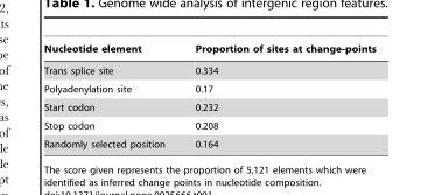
<table><thead><tr><td>Nucleotide element</td><td>Proportion of sites at change-points</td></tr></thead><tbody><tr><td>Trans splice site</td><td>0.334</td></tr><tr><td>Polyadenylation site</td><td>0.17</td></tr><tr><td>Start codon</td><td>0.232</td></tr><tr><td>Stop codon</td><td>0.208</td></tr><tr><td>Randomly selected position</td><td>0.164</td></tr></tbody></table>